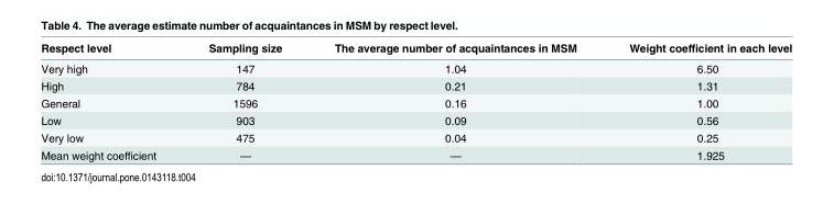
<table><thead><tr><td>Respect level</td><td>Sampling size</td><td>The average number of acquaintances in MSM</td><td>Weight coefficient in each level</td></tr></thead><tbody><tr><td>Very high</td><td>147</td><td>1.04</td><td>6.50</td></tr><tr><td>High</td><td>784</td><td>0.21</td><td>1.31</td></tr><tr><td>General</td><td>1596</td><td>0.16</td><td>1.00</td></tr><tr><td>Low</td><td>903</td><td>0.09</td><td>0.56</td></tr><tr><td>Very low</td><td>475</td><td>0.04</td><td>0.25</td></tr><tr><td>Mean weight coefficient</td><td>—</td><td>—</td><td>1.925</td></tr></tbody></table>